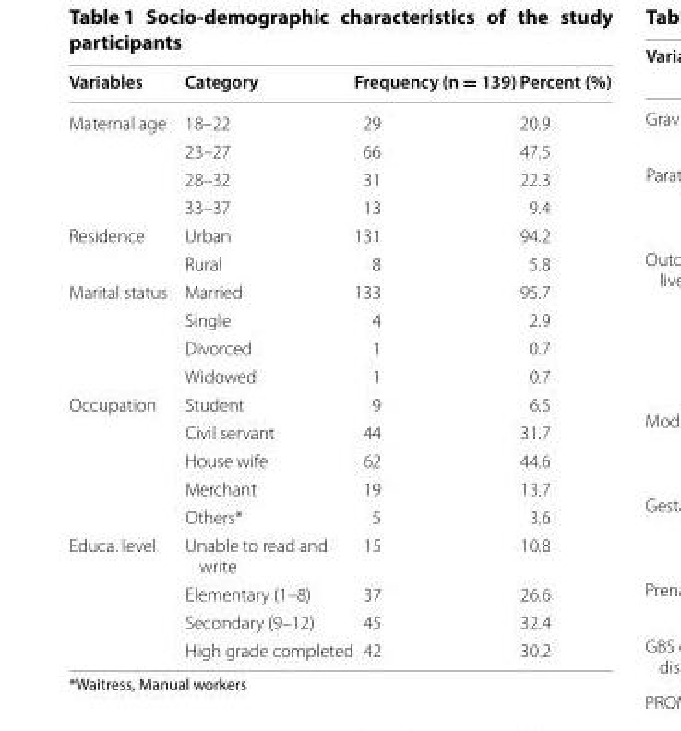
<table><thead><tr><td>Variables</td><td>Category</td><td>Frequency (n = 139)</td><td>Percent (%)</td></tr></thead><tbody><tr><td rowspan="4">Maternal age</td><td>18–22</td><td>29</td><td>20.9</td></tr><tr><td>23–27</td><td>66</td><td>47.5</td></tr><tr><td>28–32</td><td>31</td><td>22.3</td></tr><tr><td>33–37</td><td>13</td><td>9.4</td></tr><tr><td rowspan="2">Residence</td><td>Urban</td><td>131</td><td>94.2</td></tr><tr><td>Rural</td><td>8</td><td>5.8</td></tr><tr><td rowspan="4">Marital status</td><td>Married</td><td>133</td><td>95.7</td></tr><tr><td>Single</td><td>4</td><td>2.9</td></tr><tr><td>Divorced</td><td>1</td><td>0.7</td></tr><tr><td>Widowed</td><td>1</td><td>0.7</td></tr><tr><td rowspan="5">Occupation</td><td>Student</td><td>9</td><td>6.5</td></tr><tr><td>Civil servant</td><td>44</td><td>31.7</td></tr><tr><td>House wife</td><td>62</td><td>44.6</td></tr><tr><td>Merchant</td><td>19</td><td>13.7</td></tr><tr><td>Others*</td><td>5</td><td>3.6</td></tr><tr><td rowspan="4">Educa. level</td><td>Unable to read and write</td><td>15</td><td>10.8</td></tr><tr><td>Elementary (1–8)</td><td>37</td><td>26.6</td></tr><tr><td>Secondary (9–12)</td><td>45</td><td>32.4</td></tr><tr><td>High grade completed</td><td>42</td><td>30.2</td></tr></tbody></table>